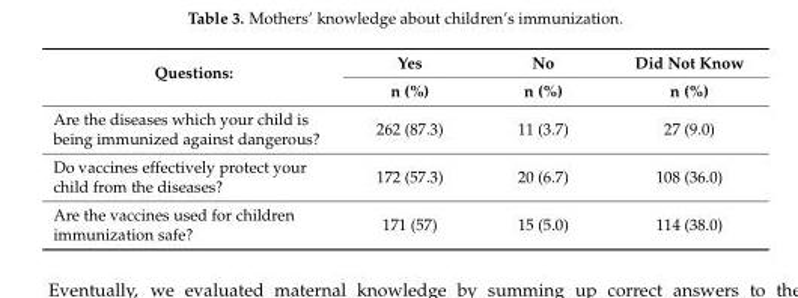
<table><thead><tr><td rowspan="2">Questions:</td><td rowspan="2">Yes n (%)</td><td rowspan="2">No n (%)</td><td rowspan="2">Did Not Know n (%)</td></tr><tr></tr></thead><tbody><tr><td>Are the diseases which your child is being immunized against dangerous?</td><td>262 (87.3)</td><td>11 (3.7)</td><td>27 (9.0)</td></tr><tr><td>Do vaccines effectively protect your child from the diseases?</td><td>172 (57.3)</td><td>20 (6.7)</td><td>108 (36.0)</td></tr><tr><td>Are the vaccines used for children immunization safe?</td><td>171 (57)</td><td>15 (5.0)</td><td>114 (38.0)</td></tr></tbody></table>